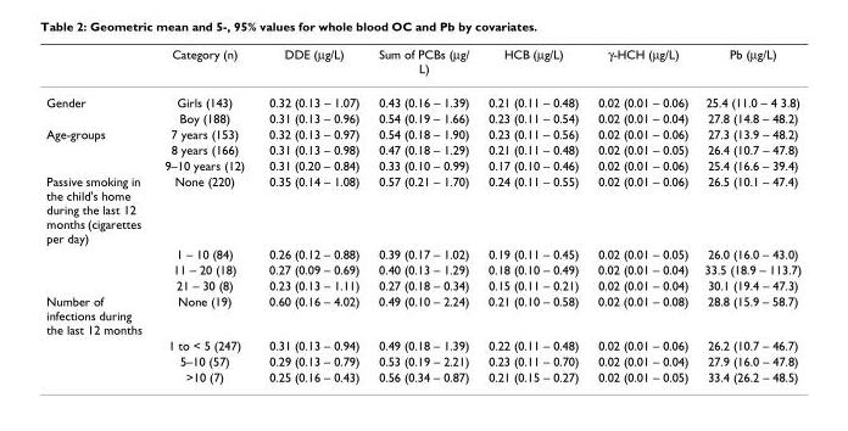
<table><thead><tr><td></td><td>Category (n)</td><td>DDE (µg/L)</td><td>Sum of PCBs (µg/ L)</td><td>HCB (µg/L)</td><td>γ-HCH (µg/L)</td><td>Pb (µg/L)</td></tr></thead><tbody><tr><td rowspan="2">Gender</td><td>Girls (143)</td><td>0.32 (0.13 – 1.07)</td><td>0.43 (0.16 – 1.39)</td><td>0.21 (0.11 – 0.48)</td><td>0.02 (0.01 – 0.06)</td><td>25.4 (11.0 – 4 3.8)</td></tr><tr><td>Boy (188)</td><td>0.31 (0.13 – 0.96)</td><td>0.54 (0.19 – 1.66)</td><td>0.23 (0.11 – 0.54)</td><td>0.02 (0.01 – 0.04)</td><td>27.8 (14.8 – 48.2)</td></tr><tr><td rowspan="3">Age-groups</td><td>7 years (153)</td><td>0.32 (0.13 – 0.97)</td><td>0.54 (0.18 – 1.90)</td><td>0.23 (0.11 – 0.56)</td><td>0.02 (0.01 – 0.06)</td><td>27.3 (13.9 – 48.2)</td></tr><tr><td>8 years (166)</td><td>0.31 (0.13 – 0.98)</td><td>0.47 (0.18 – 1.29)</td><td>0.21 (0.11 – 0.48)</td><td>0.02 (0.01 – 0.05)</td><td>26.4 (10.7 – 47.8)</td></tr><tr><td>9–10 years (12)</td><td>0.31 (0.20 – 0.84)</td><td>0.33 (0.10 – 0.99)</td><td>0.17 (0.10 – 0.46)</td><td>0.02 (0.01 – 0.06)</td><td>25.4 (16.6 – 39.4)</td></tr><tr><td rowspan="4">Passive smoking in the child&#x27;s home during the last 12 months (cigarettes per day)</td><td>None (220)</td><td>0.35 (0.14 – 1.08)</td><td>0.57 (0.21 – 1.70)</td><td>0.24 (0.11 – 0.55)</td><td>0.02 (0.01 – 0.06)</td><td>26.5 (10.1 – 47.4)</td></tr><tr><td>1 – 10 (84)</td><td>0.26 (0.12 – 0.88)</td><td>0.39 (0.17 – 1.02)</td><td>0.19 (0.11 – 0.45)</td><td>0.02 (0.01 – 0.05)</td><td>26.0 (16.0 – 43.0)</td></tr><tr><td>11 – 20 (18)</td><td>0.27 (0.09 – 0.69)</td><td>0.40 (0.13 – 1.29)</td><td>0.18 (0.10 – 0.49)</td><td>0.02 (0.01 – 0.04)</td><td>33.5 (18.9 – 113.7)</td></tr><tr><td>21 – 30 (8)</td><td>0.23 (0.13 – 1.11)</td><td>0.27 (0.18 – 0.34)</td><td>0.15 (0.11 – 0.21)</td><td>0.02 (0.01 – 0.04)</td><td>30.1 (19.4 – 47.3)</td></tr><tr><td rowspan="4">Number of infections during the last 12 months</td><td>None (19)</td><td>0.60 (0.16 – 4.02)</td><td>0.49 (0.10 – 2.24)</td><td>0.21 (0.10 – 0.58)</td><td>0.02 (0.01 – 0.08)</td><td>28.8 (15.9 – 58.7)</td></tr><tr><td>1 to &lt; 5 (247)</td><td>0.31 (0.13 – 0.94)</td><td>0.49 (0.18 – 1.39)</td><td>0.22 (0.11 – 0.48)</td><td>0.02 (0.01 – 0.06)</td><td>26.2 (10.7 – 46.7)</td></tr><tr><td>5–10 (57)</td><td>0.29 (0.13 – 0.79)</td><td>0.53 (0.19 – 2.21)</td><td>0.23 (0.11 – 0.70)</td><td>0.02 (0.01 – 0.04)</td><td>27.9 (16.0 – 47.8)</td></tr><tr><td>&gt;10 (7)</td><td>0.25 (0.16 – 0.43)</td><td>0.56 (0.34 – 0.87)</td><td>0.21 (0.15 – 0.27)</td><td>0.02 (0.01 – 0.05)</td><td>33.4 (26.2 – 48.5)</td></tr></tbody></table>